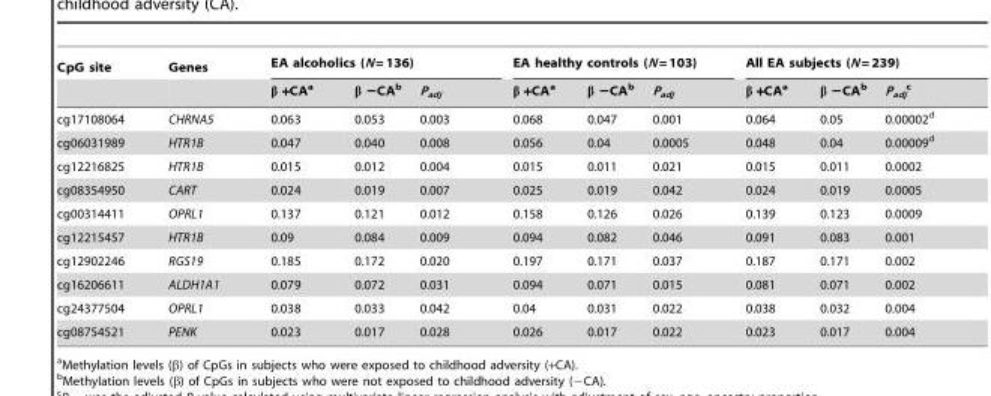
<table><thead><tr><td rowspan="2">CpG site</td><td rowspan="2">Genes</td><td colspan="3">EA alcoholics (N = 136)</td><td colspan="3">EA healthy controls (N = 103)</td><td colspan="3">All EA subjects (N = 239)</td></tr><tr><td>β +CA<sup>a</sup></td><td>β −CA<sup>b</sup></td><td>P<sub>adj</sub></td><td>β +CA<sup>a</sup></td><td>β −CA<sup>b</sup></td><td>P<sub>adj</sub></td><td>β +CA<sup>a</sup></td><td>β −CA<sup>b</sup></td><td>P<sub>adj</sub> c</td></tr></thead><tbody><tr><td>cg17108064</td><td>CHRNA5</td><td>0.063</td><td>0.053</td><td>0.003</td><td>0.068</td><td>0.047</td><td>0.001</td><td>0.064</td><td>0.05</td><td>0.00002<sup>d</sup></td></tr><tr><td>cg06031989</td><td>HTR1B</td><td>0.047</td><td>0.040</td><td>0.008</td><td>0.056</td><td>0.04</td><td>0.0005</td><td>0.048</td><td>0.04</td><td>0.00009<sup>d</sup></td></tr><tr><td>cg12216825</td><td>HTR1B</td><td>0.015</td><td>0.012</td><td>0.004</td><td>0.015</td><td>0.011</td><td>0.021</td><td>0.015</td><td>0.011</td><td>0.0002</td></tr><tr><td>cg08354950</td><td>CART</td><td>0.024</td><td>0.019</td><td>0.007</td><td>0.025</td><td>0.019</td><td>0.042</td><td>0.024</td><td>0.019</td><td>0.0005</td></tr><tr><td>cg00314411</td><td>OPRL1</td><td>0.137</td><td>0.121</td><td>0.012</td><td>0.158</td><td>0.126</td><td>0.026</td><td>0.139</td><td>0.123</td><td>0.0009</td></tr><tr><td>cg12215457</td><td>HTR1B</td><td>0.09</td><td>0.084</td><td>0.009</td><td>0.094</td><td>0.082</td><td>0.046</td><td>0.091</td><td>0.083</td><td>0.001</td></tr><tr><td>cg12902246</td><td>RGS19</td><td>0.185</td><td>0.172</td><td>0.020</td><td>0.197</td><td>0.171</td><td>0.037</td><td>0.187</td><td>0.171</td><td>0.002</td></tr><tr><td>cg16206611</td><td>ALDH1A1</td><td>0.079</td><td>0.072</td><td>0.031</td><td>0.094</td><td>0.071</td><td>0.015</td><td>0.081</td><td>0.071</td><td>0.002</td></tr><tr><td>cg24377504</td><td>OPRL1</td><td>0.038</td><td>0.033</td><td>0.042</td><td>0.04</td><td>0.031</td><td>0.022</td><td>0.038</td><td>0.032</td><td>0.004</td></tr><tr><td>cg08754521</td><td>PENK</td><td>0.023</td><td>0.017</td><td>0.028</td><td>0.026</td><td>0.017</td><td>0.022</td><td>0.023</td><td>0.017</td><td>0.004</td></tr></tbody></table>